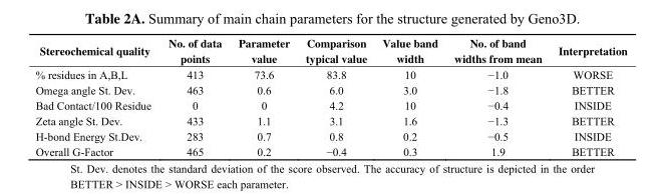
<table><thead><tr><td>Stereochemical quality</td><td>No. of data points</td><td>Parameter value</td><td>Comparison typical value</td><td>Value band width</td><td>No. of band widths from mean</td><td>Interpretation</td></tr></thead><tbody><tr><td>% residues in A,B,L</td><td>413</td><td>73.6</td><td>83.8</td><td>10</td><td>−1.0</td><td>WORSE</td></tr><tr><td>Omega angle St. Dev.</td><td>463</td><td>0.6</td><td>6.0</td><td>3.0</td><td>−1.8</td><td>BETTER</td></tr><tr><td>Bad Contact/100 Residue</td><td>0</td><td>0</td><td>4.2</td><td>10</td><td>−0.4</td><td>INSIDE</td></tr><tr><td>Zeta angle St. Dev.</td><td>433</td><td>1.1</td><td>3.1</td><td>1.6</td><td>−1.3</td><td>BETTER</td></tr><tr><td>H-bond Energy St.Dev.</td><td>283</td><td>0.7</td><td>0.8</td><td>0.2</td><td>−0.5</td><td>INSIDE</td></tr><tr><td>Overall G-Factor</td><td>465</td><td>0.2</td><td>−0.4</td><td>0.3</td><td>1.9</td><td>BETTER</td></tr></tbody></table>